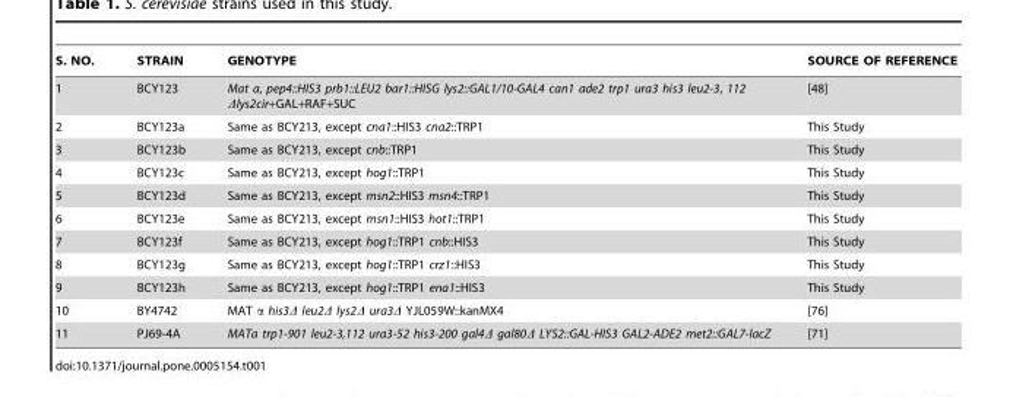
<table><thead><tr><td>S. NO.</td><td>STRAIN</td><td>GENOTYPE</td><td>SOURCE OF REFERENCE</td></tr></thead><tbody><tr><td>1</td><td>BCY123</td><td>Mat a, pep4::HIS3 prb1::LEU2 bar1::HISG lys2::GAL1/10-GAL4 can1 ade2 trp1 ura3 his3 leu2-3, 112 Δlys2cir+GAL+RAF+SUC</td><td>[48]</td></tr><tr><td>2</td><td>BCY123a</td><td>Same as BCY213, except cna1::HIS3 cna2::TRP1</td><td>This Study</td></tr><tr><td>3</td><td>BCY123b</td><td>Same as BCY213, except cnb::TRP1</td><td>This Study</td></tr><tr><td>4</td><td>BCY123c</td><td>Same as BCY213, except hog1::TRP1</td><td>This Study</td></tr><tr><td>5</td><td>BCY123d</td><td>Same as BCY213, except msn2::HIS3 msn4::TRP1</td><td>This Study</td></tr><tr><td>6</td><td>BCY123e</td><td>Same as BCY213, except msn1::HIS3 hot1::TRP1</td><td>This Study</td></tr><tr><td>7</td><td>BCY123f</td><td>Same as BCY213, except hog1::TRP1 cnb::HIS3</td><td>This Study</td></tr><tr><td>8</td><td>BCY123g</td><td>Same as BCY213, except hog1::TRP1 crz1::HIS3</td><td>This Study</td></tr><tr><td>9</td><td>BCY123h</td><td>Same as BCY213, except hog1::TRP1 ena1::HIS3</td><td>This Study</td></tr><tr><td>10</td><td>BY4742</td><td>MAT α his3Δ leu2Δ lys2Δ ura3Δ YJL059W::kanMX4</td><td>[76]</td></tr><tr><td>11</td><td>PJ69-4A</td><td>MATa trp1-901 leu2-3,112 ura3-52 his3-200 gal4Δ gal80Δ LYS2::GAL-HIS3 GAL2-ADE2 met2::GAL7-lacZ</td><td>[71]</td></tr></tbody></table>